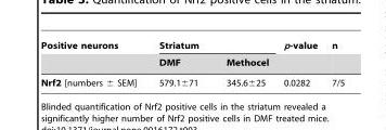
<table><thead><tr><td rowspan="2">Positive neurons</td><td colspan="2">Striatum</td><td rowspan="2">p-value</td><td rowspan="2">n</td></tr><tr><td>DMF</td><td>Methocel</td></tr></thead><tbody><tr><td>Nrf2 [numbers ± SEM]</td><td>579.1±71</td><td>345.6±25</td><td>0.0282</td><td>7/5</td></tr></tbody></table>